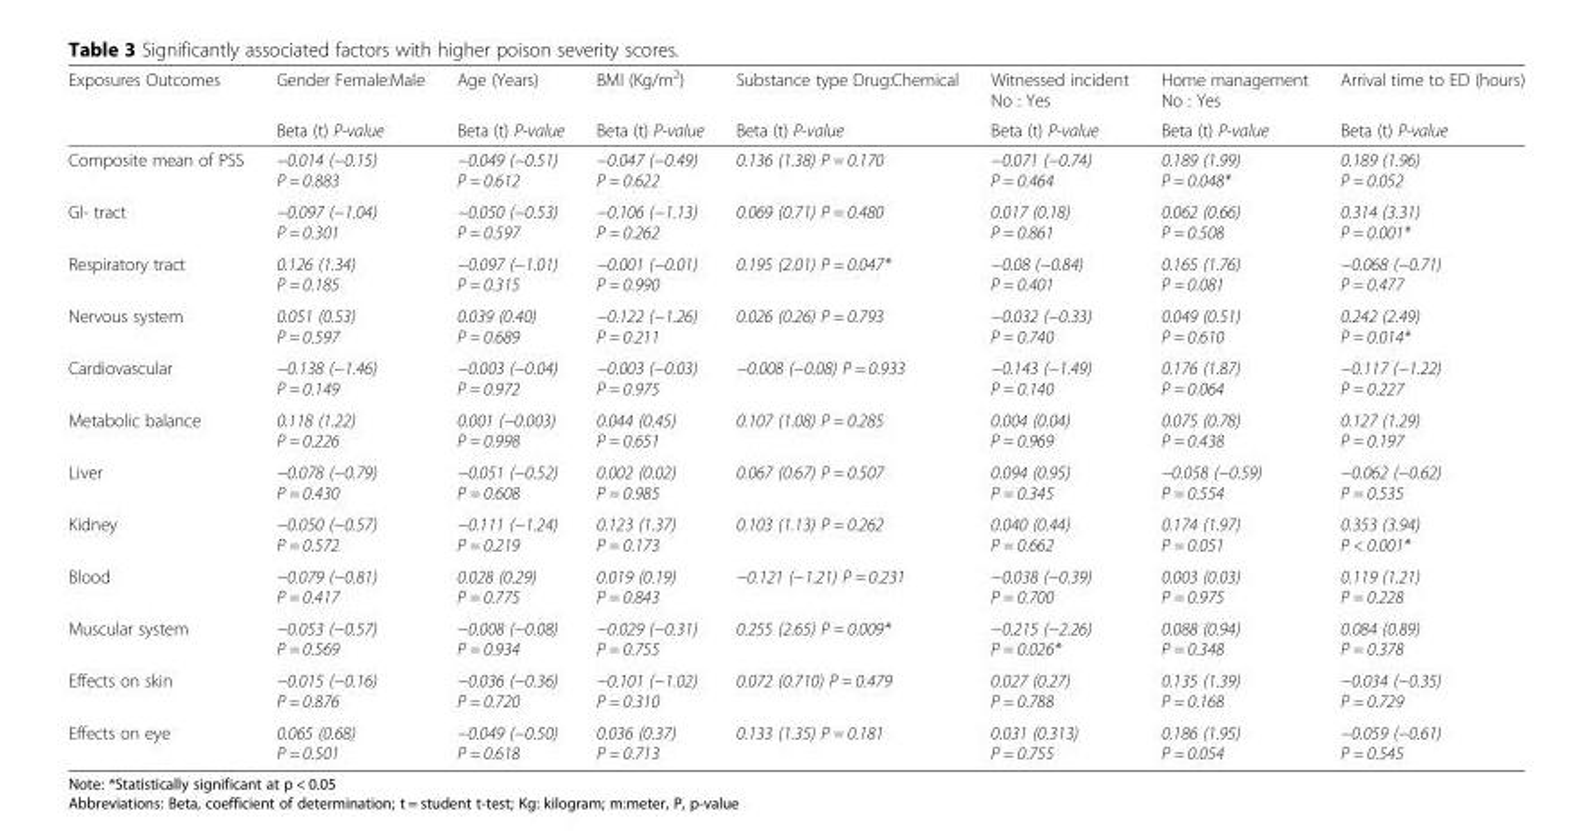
<table><thead><tr><td rowspan="2">Exposures Outcomes</td><td rowspan="2">Gender Female:Male Beta (t) P-value</td><td rowspan="2">Age (Years) Beta (t) P-value</td><td rowspan="2">BMI (Kg/m<sup>2</sup>) Beta (t) P-value</td><td rowspan="2">Substance type Drug:Chemical Beta (t) P-value</td><td rowspan="2">Witnessed incident No : Yes Beta (t) P-value</td><td rowspan="2">Home management No : Yes Beta (t) P-value</td><td rowspan="2">Arrival time to ED (hours) Beta (t) P-value</td></tr><tr></tr></thead><tbody><tr><td>Composite mean of PSS</td><td>−0.014 (−0.15) P = 0.883</td><td>−0.049 (−0.51) P = 0.612</td><td>−0.047 (−0.49) P = 0.622</td><td>0.136 (1.38) P = 0.170</td><td>−0.071 (−0.74) P = 0.464</td><td>0.189 (1.99) P = 0.048*</td><td>0.189 (1.96) P = 0.052</td></tr><tr><td>GI- tract</td><td>−0.097 (−1.04) P = 0.301</td><td>−0.050 (−0.53) P = 0.597</td><td>−0.106 (−1.13) P = 0.262</td><td>0.069 (0.71) P = 0.480</td><td>0.017 (0.18) P = 0.861</td><td>0.062 (0.66) P = 0.508</td><td>0.314 (3.31) P = 0.001*</td></tr><tr><td>Respiratory tract</td><td>0.126 (1.34) P = 0.185</td><td>−0.097 (−1.01) P = 0.315</td><td>−0.001 (−0.01) P = 0.990</td><td>0.195 (2.01) P = 0.047*</td><td>−0.08 (−0.84) P = 0.401</td><td>0.165 (1.76) P = 0.081</td><td>−0.068 (−0.71) P = 0.477</td></tr><tr><td>Nervous system</td><td>0.051 (0.53) P = 0.597</td><td>0.039 (0.40) P = 0.689</td><td>−0.122 (−1.26) P = 0.211</td><td>0.026 (0.26) P = 0.793</td><td>−0.032 (−0.33) P = 0.740</td><td>0.049 (0.51) P = 0.610</td><td>0.242 (2.49) P = 0.014*</td></tr><tr><td>Cardiovascular</td><td>−0.138 (−1.46) P = 0.149</td><td>−0.003 (−0.04) P = 0.972</td><td>−0.003 (−0.03) P = 0.975</td><td>−0.008 (−0.08) P = 0.933</td><td>−0.143 (−1.49) P = 0.140</td><td>0.176 (1.87) P = 0.064</td><td>−0.117 (−1.22) P = 0.227</td></tr><tr><td>Metabolic balance</td><td>0.118 (1.22) P = 0.226</td><td>0.001 (−0.003) P = 0.998</td><td>0.044 (0.45) P = 0.651</td><td>0.107 (1.08) P = 0.285</td><td>0.004 (0.04) P = 0.969</td><td>0.075 (0.78) P = 0.438</td><td>0.127 (1.29) P = 0.197</td></tr><tr><td>Liver</td><td>−0.078 (−0.79) P = 0.430</td><td>−0.051 (−0.52) P = 0.608</td><td>0.002 (0.02) P = 0.985</td><td>0.067 (0.67) P = 0.507</td><td>0.094 (0.95) P = 0.345</td><td>−0.058 (−0.59) P = 0.554</td><td>−0.062 (−0.62) P = 0.535</td></tr><tr><td>Kidney</td><td>−0.050 (−0.57) P = 0.572</td><td>−0.111 (−1.24) P = 0.219</td><td>0.123 (1.37) P = 0.173</td><td>0.103 (1.13) P = 0.262</td><td>0.040 (0.44) P = 0.662</td><td>0.174 (1.97) P = 0.051</td><td>0.353 (3.94) P &lt; 0.001*</td></tr><tr><td>Blood</td><td>−0.079 (−0.81) P = 0.417</td><td>0.028 (0.29) P = 0.775</td><td>0.019 (0.19) P = 0.843</td><td>−0.121 (−1.21) P = 0.231</td><td>−0.038 (−0.39) P = 0.700</td><td>0.003 (0.03) P = 0.975</td><td>0.119 (1.21) P = 0.228</td></tr><tr><td>Muscular system</td><td>−0.053 (−0.57) P = 0.569</td><td>−0.008 (−0.08) P = 0.934</td><td>−0.029 (−0.31) P = 0.755</td><td>0.255 (2.65) P = 0.009*</td><td>−0.215 (−2.26) P = 0.026*</td><td>0.088 (0.94) P = 0.348</td><td>0.084 (0.89) P = 0.378</td></tr><tr><td>Effects on skin</td><td>−0.015 (−0.16) P = 0.876</td><td>−0.036 (−0.36) P = 0.720</td><td>−0.101 (−1.02) P = 0.310</td><td>0.072 (0.710) P = 0.479</td><td>0.027 (0.27) P = 0.788</td><td>0.135 (1.39) P = 0.168</td><td>−0.034 (−0.35) P = 0.729</td></tr><tr><td>Effects on eye</td><td>0.065 (0.68) P = 0.501</td><td>−0.049 (−0.50) P = 0.618</td><td>0.036 (0.37) P = 0.713</td><td>0.133 (1.35) P = 0.181</td><td>0.031 (0.313) P = 0.755</td><td>0.186 (1.95) P = 0.054</td><td>−0.059 (−0.61) P = 0.545</td></tr></tbody></table>